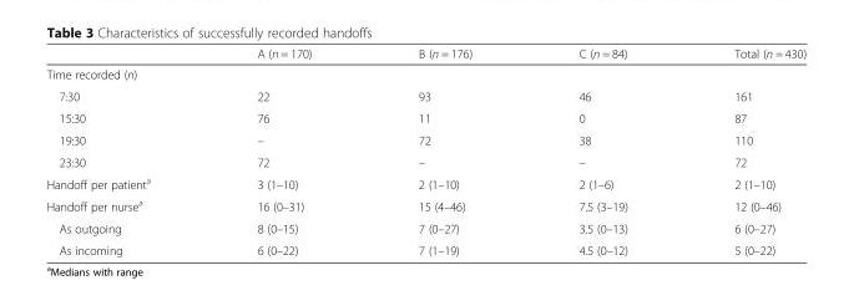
<table><thead><tr><td></td><td>A (n = 170)</td><td>B (n = 176)</td><td>C (n = 84)</td><td>Total (n = 430)</td></tr></thead><tbody><tr><td colspan="5">Time recorded (n)</td></tr><tr><td>7:30</td><td>22</td><td>93</td><td>46</td><td>161</td></tr><tr><td>15:30</td><td>76</td><td>11</td><td>0</td><td>87</td></tr><tr><td>19:30</td><td>–</td><td>72</td><td>38</td><td>110</td></tr><tr><td>23:30</td><td>72</td><td>–</td><td>–</td><td>72</td></tr><tr><td>Handoff per patient<sup>a</sup></td><td>3 (1–10)</td><td>2 (1–10)</td><td>2 (1–6)</td><td>2 (1–10)</td></tr><tr><td>Handoff per nurse<sup>a</sup></td><td>16 (0–31)</td><td>15 (4–46)</td><td>7.5 (3–19)</td><td>12 (0–46)</td></tr><tr><td>As outgoing</td><td>8 (0–15)</td><td>7 (0–27)</td><td>3.5 (0–13)</td><td>6 (0–27)</td></tr><tr><td>As incoming</td><td>6 (0–22)</td><td>7 (1–19)</td><td>4.5 (0–12)</td><td>5 (0–22)</td></tr></tbody></table>